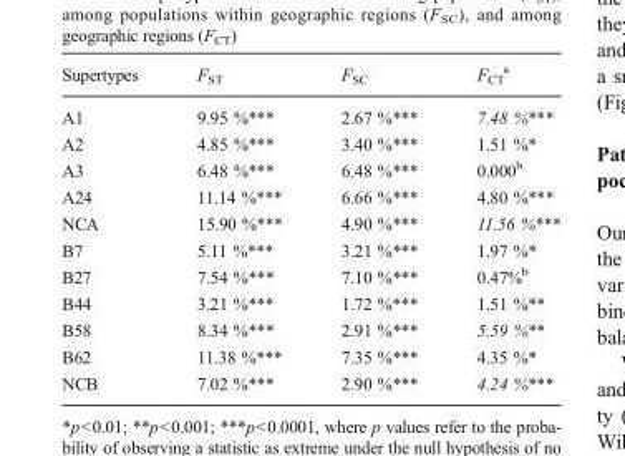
<table><thead><tr><td>Supertypes</td><td>F<sub>ST</sub></td><td>F<sub>SC</sub></td><td>F<sub>CT</sub> <sup>a</sup></td></tr></thead><tbody><tr><td>A1</td><td>9.95 %***</td><td>2.67 %***</td><td>7.48 %***</td></tr><tr><td>A2</td><td>4.85 %***</td><td>3.40 %***</td><td>1.51 %*</td></tr><tr><td>A3</td><td>6.48 %***</td><td>6.48 %***</td><td>0.000<sup>b</sup></td></tr><tr><td>A24</td><td>11.14 %***</td><td>6.66 %***</td><td>4.80 %***</td></tr><tr><td>NCA</td><td>15.90 %***</td><td>4.90 %***</td><td>11.56 %***</td></tr><tr><td>B7</td><td>5.11 %***</td><td>3.21 %***</td><td>1.97 %*</td></tr><tr><td>B27</td><td>7.54 %***</td><td>7.10 %***</td><td>0.47%<sup>b</sup></td></tr><tr><td>B44</td><td>3.21 %***</td><td>1.72 %***</td><td>1.51 %**</td></tr><tr><td>B58</td><td>8.34 %***</td><td>2.91 %***</td><td>5.59 %**</td></tr><tr><td>B62</td><td>11.38 %***</td><td>7.35 %***</td><td>4.35 %*</td></tr><tr><td>NCB</td><td>7.02 %***</td><td>2.90 %***</td><td>4.24 %***</td></tr></tbody></table>